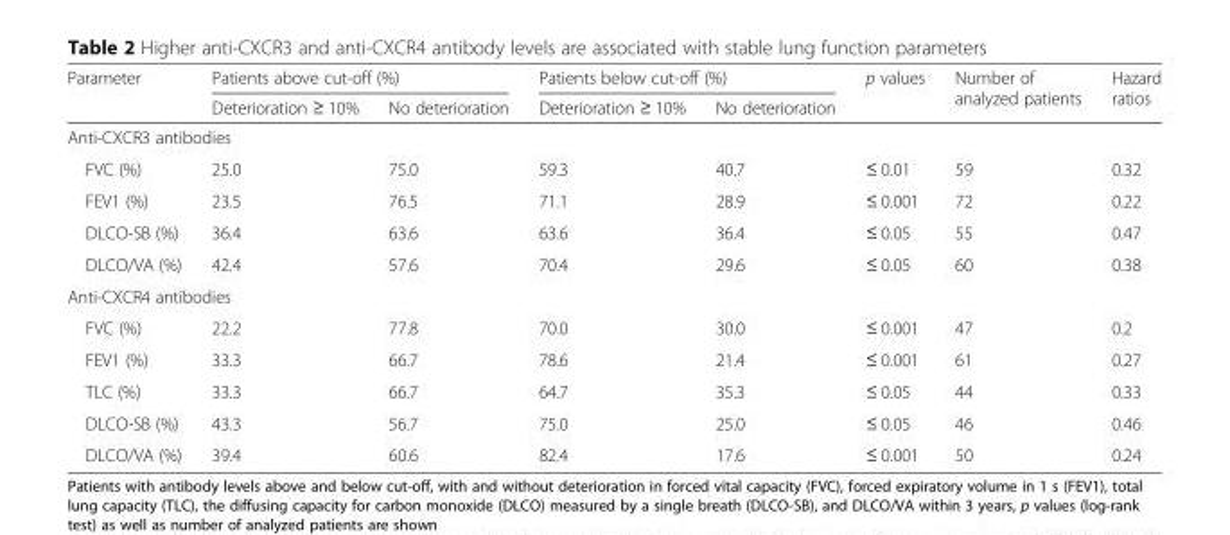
<table><thead><tr><td rowspan="2">Parameter</td><td colspan="2">Patients above cut-off (%)</td><td colspan="2">Patients below cut-off (%)</td><td rowspan="2">p values</td><td rowspan="2">Number of analyzed patients</td><td rowspan="2">Hazard ratios</td></tr><tr><td>Deterioration ≥ 10%</td><td>No deterioration</td><td>Deterioration ≥ 10%</td><td>No deterioration</td></tr></thead><tbody><tr><td colspan="8">Anti-CXCR3 antibodies</td></tr><tr><td>FVC (%)</td><td>25.0</td><td>75.0</td><td>59.3</td><td>40.7</td><td>≤ 0.01</td><td>59</td><td>0.32</td></tr><tr><td>FEV1 (%)</td><td>23.5</td><td>76.5</td><td>71.1</td><td>28.9</td><td>≤ 0.001</td><td>72</td><td>0.22</td></tr><tr><td>DLCO-SB (%)</td><td>36.4</td><td>63.6</td><td>63.6</td><td>36.4</td><td>≤ 0.05</td><td>55</td><td>0.47</td></tr><tr><td>DLCO/VA (%)</td><td>42.4</td><td>57.6</td><td>70.4</td><td>29.6</td><td>≤ 0.05</td><td>60</td><td>0.38</td></tr><tr><td colspan="8">Anti-CXCR4 antibodies</td></tr><tr><td>FVC (%)</td><td>22.2</td><td>77.8</td><td>70.0</td><td>30.0</td><td>≤ 0.001</td><td>47</td><td>0.2</td></tr><tr><td>FEV1 (%)</td><td>33.3</td><td>66.7</td><td>78.6</td><td>21.4</td><td>≤ 0.001</td><td>61</td><td>0.27</td></tr><tr><td>TLC (%)</td><td>33.3</td><td>66.7</td><td>64.7</td><td>35.3</td><td>≤ 0.05</td><td>44</td><td>0.33</td></tr><tr><td>DLCO-SB (%)</td><td>43.3</td><td>56.7</td><td>75.0</td><td>25.0</td><td>≤ 0.05</td><td>46</td><td>0.46</td></tr><tr><td>DLCO/VA (%)</td><td>39.4</td><td>60.6</td><td>82.4</td><td>17.6</td><td>≤ 0.001</td><td>50</td><td>0.24</td></tr></tbody></table>